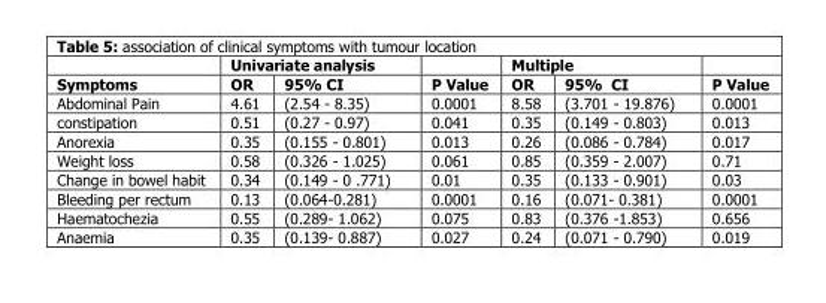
<table><thead><tr><td rowspan="2">Symptoms</td><td colspan="2">Univariate analysis</td><td rowspan="2">P Value</td><td colspan="2">Multiple</td><td rowspan="2">P Value</td></tr><tr><td>OR</td><td>95% CI</td><td>OR</td><td>95% CI</td></tr></thead><tbody><tr><td>Abdominal Pain</td><td>4.61</td><td>(2.54 - 8.35)</td><td>0.0001</td><td>8.58</td><td>(3.701 - 19.876)</td><td>0.0001</td></tr><tr><td>constipation</td><td>0.51</td><td>(0.27 - 0.97)</td><td>0.041</td><td>0.35</td><td>(0.149 - 0.803)</td><td>0.013</td></tr><tr><td>Anorexia</td><td>0.35</td><td>(0.155 - 0.801)</td><td>0.013</td><td>0.26</td><td>(0.086 - 0.784)</td><td>0.017</td></tr><tr><td>Weight loss</td><td>0.58</td><td>(0.326 - 1.025)</td><td>0.061</td><td>0.85</td><td>(0.359 - 2.007)</td><td>0.71</td></tr><tr><td>Change in bowel habit</td><td>0.34</td><td>(0.149 - 0 .771)</td><td>0.01</td><td>0.35</td><td>(0.133 - 0.901)</td><td>0.03</td></tr><tr><td>Bleeding per rectum</td><td>0.13</td><td>(0.064-0.281)</td><td>0.0001</td><td>0.16</td><td>(0.071- 0.381)</td><td>0.0001</td></tr><tr><td>Haematochezia</td><td>0.55</td><td>(0.289- 1.062)</td><td>0.075</td><td>0.83</td><td>(0.376 -1.853)</td><td>0.656</td></tr><tr><td>Anaemia</td><td>0.35</td><td>(0.139- 0.887)</td><td>0.027</td><td>0.24</td><td>(0.071 - 0.790)</td><td>0.019</td></tr></tbody></table>